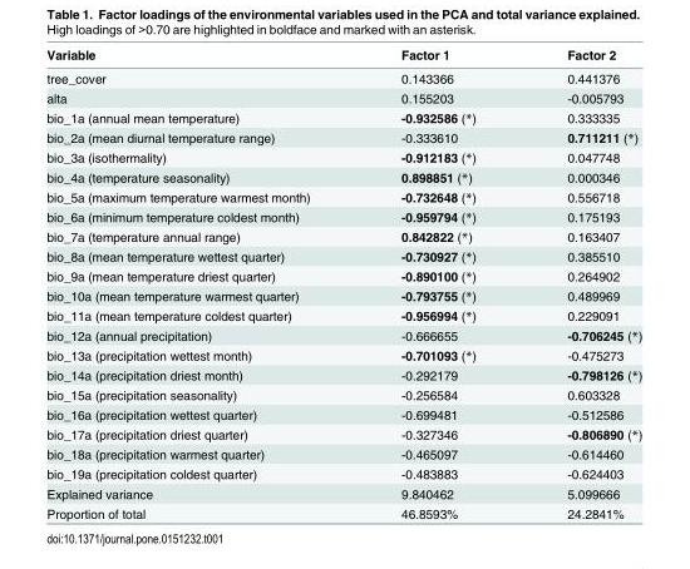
<table><thead><tr><td>Variable</td><td>Factor 1</td><td>Factor 2</td></tr></thead><tbody><tr><td>tree_cover</td><td>0.143366</td><td>0.441376</td></tr><tr><td>alta</td><td>0.155203</td><td>-0.005793</td></tr><tr><td>bio_1a (annual mean temperature)</td><td>-0.932586 (*)</td><td>0.333335</td></tr><tr><td>bio_2a (mean diurnal temperature range)</td><td>-0.333610</td><td>0.711211 (*)</td></tr><tr><td>bio_3a (isothermality)</td><td>-0.912183 (*)</td><td>0.047748</td></tr><tr><td>bio_4a (temperature seasonality)</td><td>0.898851 (*)</td><td>0.000346</td></tr><tr><td>bio_5a (maximum temperature warmest month)</td><td>-0.732648 (*)</td><td>0.556718</td></tr><tr><td>bio_6a (minimum temperature coldest month)</td><td>-0.959794 (*)</td><td>0.175193</td></tr><tr><td>bio_7a (temperature annual range)</td><td>0.842822 (*)</td><td>0.163407</td></tr><tr><td>bio_8a (mean temperature wettest quarter)</td><td>-0.730927 (*)</td><td>0.385510</td></tr><tr><td>bio_9a (mean temperature driest quarter)</td><td>-0.890100 (*)</td><td>0.264902</td></tr><tr><td>bio_10a (mean temperature warmest quarter)</td><td>-0.793755 (*)</td><td>0.489969</td></tr><tr><td>bio_11a (mean temperature coldest quarter)</td><td>-0.956994 (*)</td><td>0.229091</td></tr><tr><td>bio_12a (annual precipitation)</td><td>-0.666655</td><td>-0.706245 (*)</td></tr><tr><td>bio_13a (precipitation wettest month)</td><td>-0.701093 (*)</td><td>-0.475273</td></tr><tr><td>bio_14a (precipitation driest month)</td><td>-0.292179</td><td>-0.798126 (*)</td></tr><tr><td>bio_15a (precipitation seasonality)</td><td>-0.256584</td><td>0.603328</td></tr><tr><td>bio_16a (precipitation wettest quarter)</td><td>-0.699481</td><td>-0.512586</td></tr><tr><td>bio_17a (precipitation driest quarter)</td><td>-0.327346</td><td>-0.806890 (*)</td></tr><tr><td>bio_18a (precipitation warmest quarter)</td><td>-0.465097</td><td>-0.614460</td></tr><tr><td>bio_19a (precipitation coldest quarter)</td><td>-0.483883</td><td>-0.624403</td></tr><tr><td>Explained variance</td><td>9.840462</td><td>5.099666</td></tr><tr><td>Proportion of total</td><td>46.8593%</td><td>24.2841%</td></tr></tbody></table>